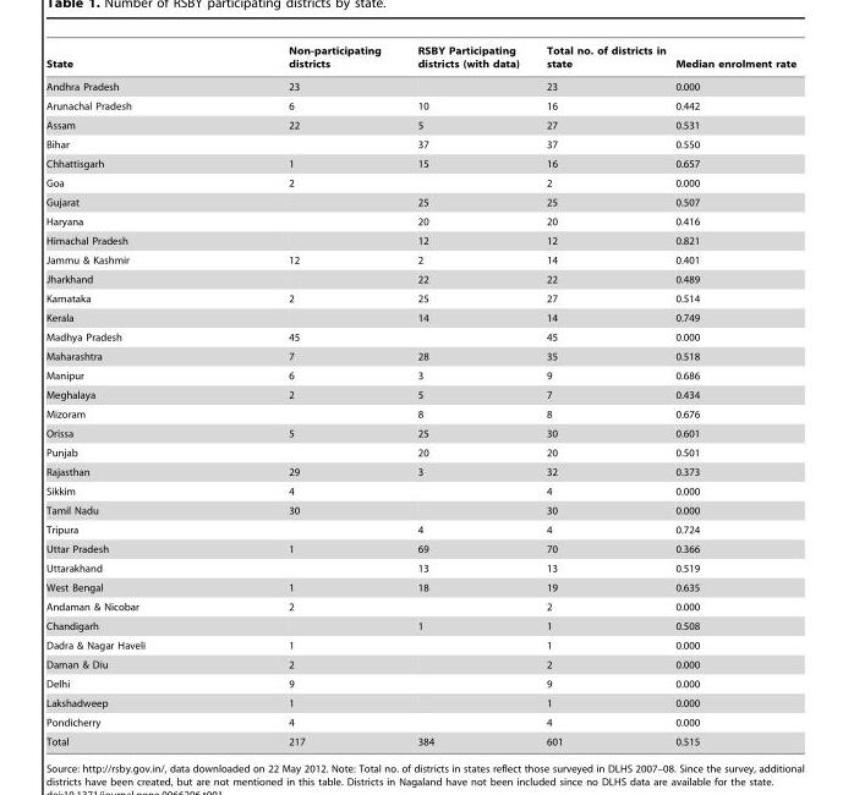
<table><thead><tr><td>State</td><td>Non-participating districts</td><td>RSBY Participating districts (with data)</td><td>Total no. of districts in state</td><td>Median enrolment rate</td></tr></thead><tbody><tr><td>Andhra Pradesh</td><td>23</td><td></td><td>23</td><td>0.000</td></tr><tr><td>Arunachal Pradesh</td><td>6</td><td>10</td><td>16</td><td>0.442</td></tr><tr><td>Assam</td><td>22</td><td>5</td><td>27</td><td>0.531</td></tr><tr><td>Bihar</td><td></td><td>37</td><td>37</td><td>0.550</td></tr><tr><td>Chhattisgarh</td><td>1</td><td>15</td><td>16</td><td>0.657</td></tr><tr><td>Goa</td><td>2</td><td></td><td>2</td><td>0.000</td></tr><tr><td>Gujarat</td><td></td><td>25</td><td>25</td><td>0.507</td></tr><tr><td>Haryana</td><td></td><td>20</td><td>20</td><td>0.416</td></tr><tr><td>Himachal Pradesh</td><td></td><td>12</td><td>12</td><td>0.821</td></tr><tr><td>Jammu &amp; Kashmir</td><td>12</td><td>2</td><td>14</td><td>0.401</td></tr><tr><td>Jharkhand</td><td></td><td>22</td><td>22</td><td>0.489</td></tr><tr><td>Karnataka</td><td>2</td><td>25</td><td>27</td><td>0.514</td></tr><tr><td>Kerala</td><td></td><td>14</td><td>14</td><td>0.749</td></tr><tr><td>Madhya Pradesh</td><td>45</td><td></td><td>45</td><td>0.000</td></tr><tr><td>Maharashtra</td><td>7</td><td>28</td><td>35</td><td>0.518</td></tr><tr><td>Manipur</td><td>6</td><td>3</td><td>9</td><td>0.686</td></tr><tr><td>Meghalaya</td><td>2</td><td>5</td><td>7</td><td>0.434</td></tr><tr><td>Mizoram</td><td></td><td>8</td><td>8</td><td>0.676</td></tr><tr><td>Orissa</td><td>5</td><td>25</td><td>30</td><td>0.601</td></tr><tr><td>Punjab</td><td></td><td>20</td><td>20</td><td>0.501</td></tr><tr><td>Rajasthan</td><td>29</td><td>3</td><td>32</td><td>0.373</td></tr><tr><td>Sikkim</td><td>4</td><td></td><td>4</td><td>0.000</td></tr><tr><td>Tamil Nadu</td><td>30</td><td></td><td>30</td><td>0.000</td></tr><tr><td>Tripura</td><td></td><td>4</td><td>4</td><td>0.724</td></tr><tr><td>Uttar Pradesh</td><td>1</td><td>69</td><td>70</td><td>0.366</td></tr><tr><td>Uttarakhand</td><td></td><td>13</td><td>13</td><td>0.519</td></tr><tr><td>West Bengal</td><td>1</td><td>18</td><td>19</td><td>0.635</td></tr><tr><td>Andaman &amp; Nicobar</td><td>2</td><td></td><td>2</td><td>0.000</td></tr><tr><td>Chandigarh</td><td></td><td>1</td><td>1</td><td>0.508</td></tr><tr><td>Dadra &amp; Nagar Haveli</td><td>1</td><td></td><td>1</td><td>0.000</td></tr><tr><td>Daman &amp; Diu</td><td>2</td><td></td><td>2</td><td>0.000</td></tr><tr><td>Delhi</td><td>9</td><td></td><td>9</td><td>0.000</td></tr><tr><td>Lakshadweep</td><td>1</td><td></td><td>1</td><td>0.000</td></tr><tr><td>Pondicherry</td><td>4</td><td></td><td>4</td><td>0.000</td></tr><tr><td>Total</td><td>217</td><td>384</td><td>601</td><td>0.515</td></tr></tbody></table>